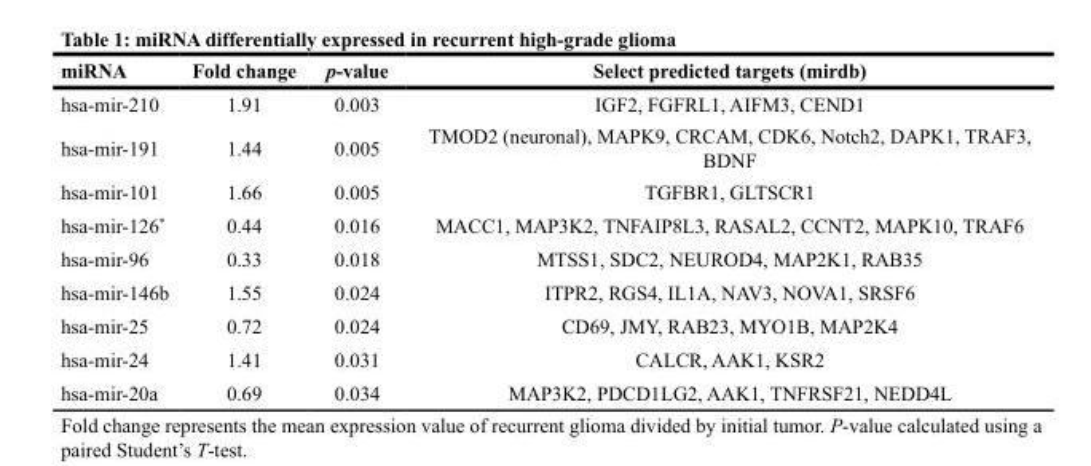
<table><thead><tr><td>miRNA</td><td>Fold change</td><td>p-value</td><td>Select predicted targets (mirdb)</td></tr></thead><tbody><tr><td>hsa-mir-210</td><td>1.91</td><td>0.003</td><td>IGF2, FGFRL1, AIFM3, CEND1</td></tr><tr><td>hsa-mir-191</td><td>1.44</td><td>0.005</td><td>TMOD2 (neuronal), MAPK9, CRCAM, CDK6, Notch2, DAPK1, TRAF3, BDNF</td></tr><tr><td>hsa-mir-101</td><td>1.66</td><td>0.005</td><td>TGFBR1, GLTSCR1</td></tr><tr><td>hsa-mir-126*</td><td>0.44</td><td>0.016</td><td>MACC1, MAP3K2, TNFAIP8L3, RASAL2, CCNT2, MAPK10, TRAF6</td></tr><tr><td>hsa-mir-96</td><td>0.33</td><td>0.018</td><td>MTSS1, SDC2, NEUROD4, MAP2K1, RAB35</td></tr><tr><td>hsa-mir-146b</td><td>1.55</td><td>0.024</td><td>ITPR2, RGS4, IL1A, NAV3, NOVA1, SRSF6</td></tr><tr><td>hsa-mir-25</td><td>0.72</td><td>0.024</td><td>CD69, JMY, RAB23, MYO1B, MAP2K4</td></tr><tr><td>hsa-mir-24</td><td>1.41</td><td>0.031</td><td>CALCR, AAK1, KSR2</td></tr><tr><td>hsa-mir-20a</td><td>0.69</td><td>0.034</td><td>MAP3K2, PDCD1LG2, AAK1, TNFRSF21, NEDD4L</td></tr></tbody></table>